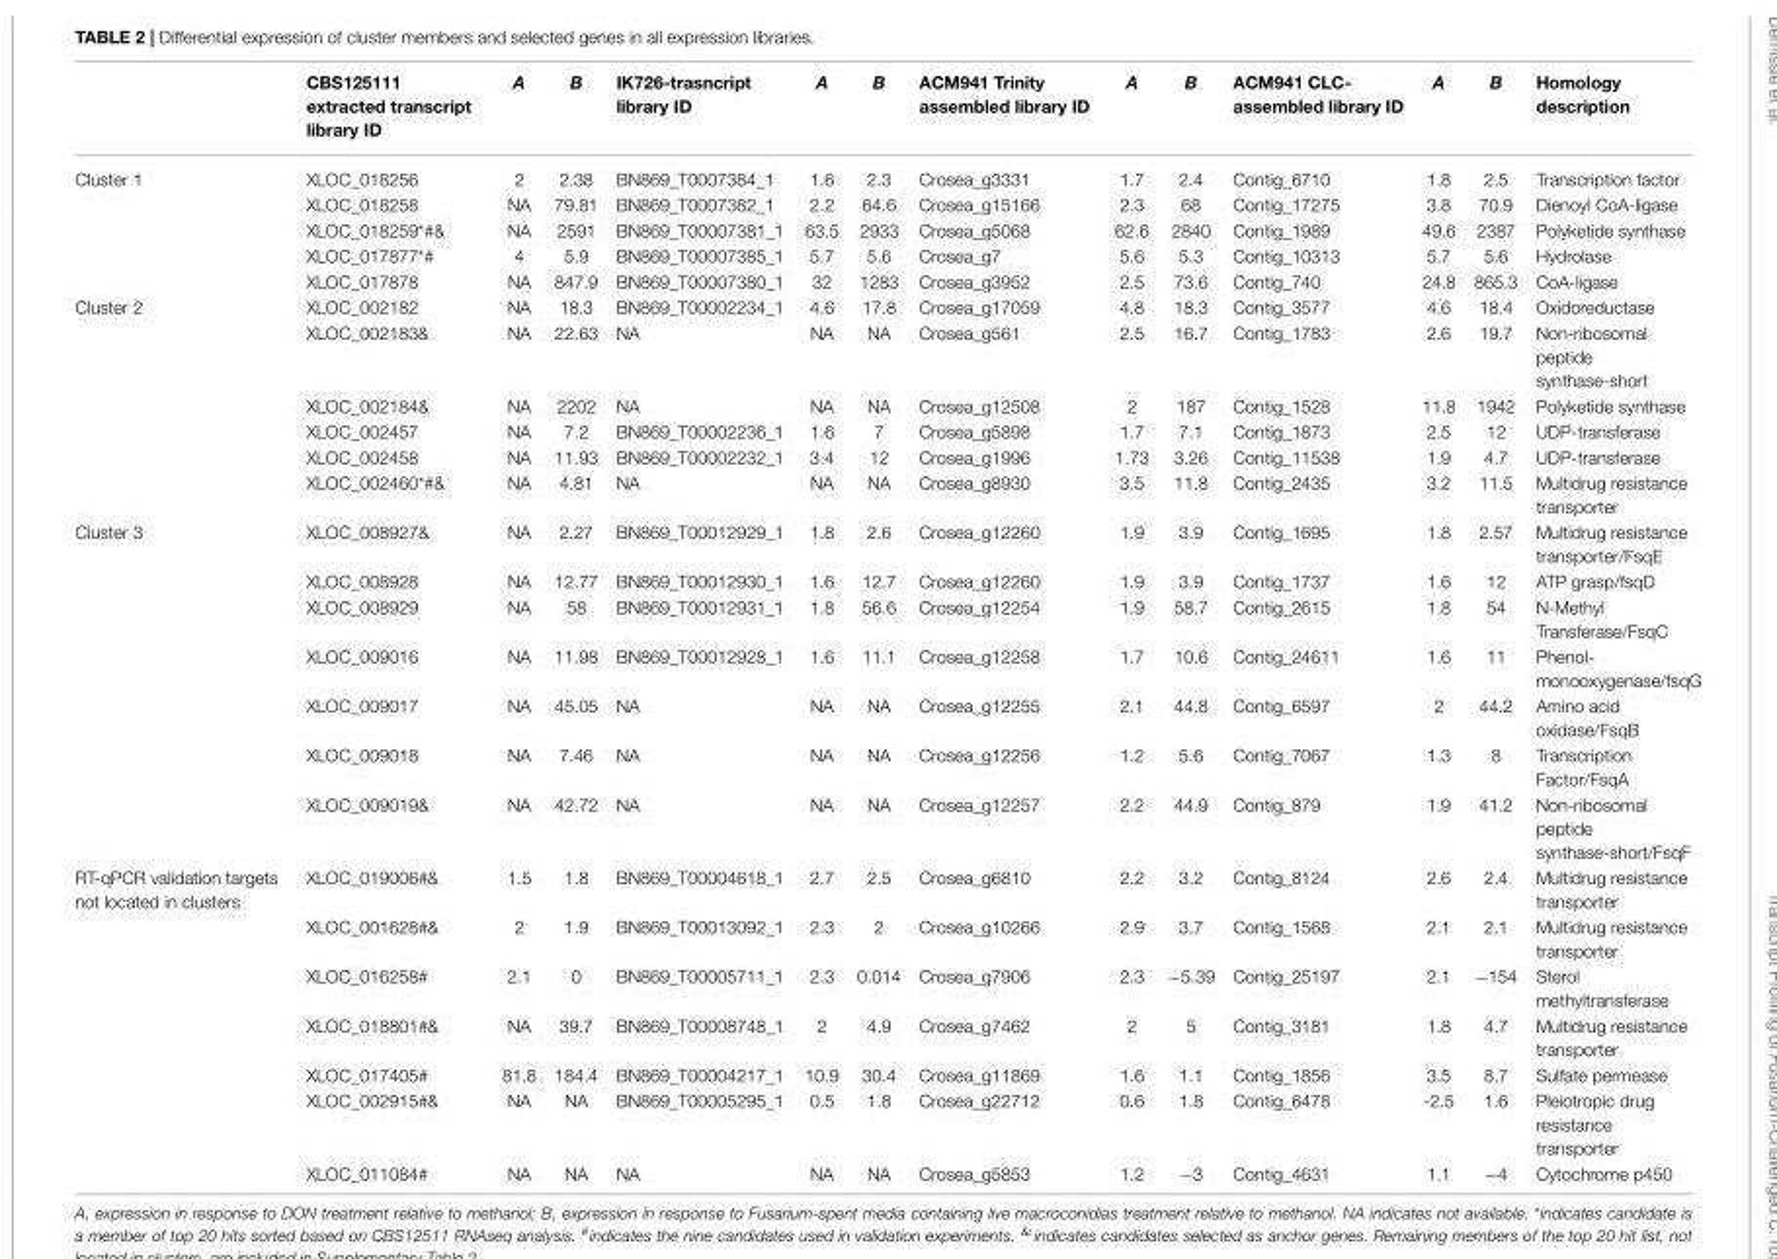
<table><thead><tr><td></td><td>CBS125111 extracted transcript library ID</td><td>A</td><td>B</td><td>IK726-trasncript library ID</td><td>A</td><td>B</td><td>ACM941 Trinity assembled library ID</td><td>A</td><td>B</td><td>ACM941 CLC- assembled library ID</td><td>A</td><td>B</td><td>Homology description</td></tr></thead><tbody><tr><td rowspan="5">Cluster 1</td><td>XLOC_018256</td><td>2</td><td>2.38</td><td>BN869_T0007384_1</td><td>1.6</td><td>2.3</td><td>Crosea_g3331</td><td>1.7</td><td>2.4</td><td>Contig_6710</td><td>1.8</td><td>2.5</td><td>Transcription factor</td></tr><tr><td>XLOC_018258</td><td>NA</td><td>79.81</td><td>BN869_T0007382_1</td><td>2.2</td><td>64.6</td><td>Crosea_g15166</td><td>2.3</td><td>68</td><td>Contig_17275</td><td>3.8</td><td>70.9</td><td>Dienoyl CoA-ligase</td></tr><tr><td>XLOC_018259<sup>*#&amp;</sup></td><td>NA</td><td>2591</td><td>BN869_T00007381_1</td><td>63.5</td><td>2933</td><td>Crosea_g5068</td><td>62.6</td><td>2840</td><td>Contig_1989</td><td>49.6</td><td>2387</td><td>Polyketide synthase</td></tr><tr><td>XLOC_017877<sup>*#</sup></td><td>4</td><td>5.9</td><td>BN869_T00007385_1</td><td>5.7</td><td>5.6</td><td>Crosea_g7</td><td>5.6</td><td>5.3</td><td>Contig_10313</td><td>5.7</td><td>5.6</td><td>Hydrolase</td></tr><tr><td>XLOC_017878</td><td>NA</td><td>847.9</td><td>BN869_T00007380_1</td><td>32</td><td>1283</td><td>Crosea_g3952</td><td>2.5</td><td>73.6</td><td>Contig_740</td><td>24.8</td><td>865.3</td><td>CoA-ligase</td></tr><tr><td rowspan="6">Cluster 2</td><td>XLOC_002182</td><td>NA</td><td>18.3</td><td>BN869_T00002234_1</td><td>4.6</td><td>17.8</td><td>Crosea_g17059</td><td>4.8</td><td>18.3</td><td>Contig_3577</td><td>4.6</td><td>18.4</td><td>Oxidoreductase</td></tr><tr><td>XLOC_002183<sup>&amp;</sup></td><td>NA</td><td>22.63</td><td>NA</td><td>NA</td><td>NA</td><td>Crosea_g561</td><td>2.5</td><td>16.7</td><td>Contig_1783</td><td>2.6</td><td>19.7</td><td>Non-ribosomal peptide synthase-short</td></tr><tr><td>XLOC_002184<sup>&amp;</sup></td><td>NA</td><td>2202</td><td>NA</td><td>NA</td><td>NA</td><td>Crosea_g12508</td><td>2</td><td>187</td><td>Contig_1528</td><td>11.8</td><td>1942</td><td>Polyketide synthase</td></tr><tr><td>XLOC_002457</td><td>NA</td><td>7.2</td><td>BN869_T00002236_1</td><td>1.6</td><td>7</td><td>Crosea_g5898</td><td>1.7</td><td>7.1</td><td>Contig_1873</td><td>2.5</td><td>12</td><td>UDP-transferase</td></tr><tr><td>XLOC_002458</td><td>NA</td><td>11.93</td><td>BN869_T00002232_1</td><td>3.4</td><td>12</td><td>Crosea_g1996</td><td>1.73</td><td>3.26</td><td>Contig_11538</td><td>1.9</td><td>4.7</td><td>UDP-transferase</td></tr><tr><td>XLOC_002460<sup>*#&amp;</sup></td><td>NA</td><td>4.81</td><td>NA</td><td>NA</td><td>NA</td><td>Crosea_g8930</td><td>3.5</td><td>11.8</td><td>Contig_2435</td><td>3.2</td><td>11.5</td><td>Multidrug resistance transporter</td></tr><tr><td rowspan="7">Cluster 3</td><td>XLOC_008927<sup>&amp;</sup></td><td>NA</td><td>2.27</td><td>BN869_T00012929_1</td><td>1.8</td><td>2.6</td><td>Crosea_g12260</td><td>1.9</td><td>3.9</td><td>Contig_1695</td><td>1.8</td><td>2.57</td><td>Multidrug resistance transporter/FsqE</td></tr><tr><td>XLOC_008928</td><td>NA</td><td>12.77</td><td>BN869_T00012930_1</td><td>1.6</td><td>12.7</td><td>Crosea_g12260</td><td>1.9</td><td>3.9</td><td>Contig_1737</td><td>1.6</td><td>12</td><td>ATP grasp/fsqD</td></tr><tr><td>XLOC_008929</td><td>NA</td><td>58</td><td>BN869_T00012931_1</td><td>1.8</td><td>56.6</td><td>Crosea_g12254</td><td>1.9</td><td>58.7</td><td>Contig_2615</td><td>1.8</td><td>54</td><td>N-Methyl Transferase/FsqC</td></tr><tr><td>XLOC_009016</td><td>NA</td><td>11.98</td><td>BN869_T00012928_1</td><td>1.6</td><td>11.1</td><td>Crosea_g12258</td><td>1.7</td><td>10.6</td><td>Contig_24611</td><td>1.6</td><td>11</td><td>Phenol- monooxygenase/fsqG</td></tr><tr><td>XLOC_009017</td><td>NA</td><td>45.05</td><td>NA</td><td>NA</td><td>NA</td><td>Crosea_g12255</td><td>2.1</td><td>44.8</td><td>Contig_6597</td><td>2</td><td>44.2</td><td>Amino acid oxidase/FsqB</td></tr><tr><td>XLOC_009018</td><td>NA</td><td>7.46</td><td>NA</td><td>NA</td><td>NA</td><td>Crosea_g12256</td><td>1.2</td><td>5.6</td><td>Contig_7067</td><td>1.3</td><td>8</td><td>Transcription Factor/FsqA</td></tr><tr><td>XLOC_009019<sup>&amp;</sup></td><td>NA</td><td>42.72</td><td>NA</td><td>NA</td><td>NA</td><td>Crosea_g12257</td><td>2.2</td><td>44.9</td><td>Contig_879</td><td>1.9</td><td>41.2</td><td>Non-ribosomal peptide synthase-short/FsqF</td></tr><tr><td rowspan="7">RT-qPCR validation targets not located in clusters</td><td>XLOC_019006<sup>#&amp;</sup></td><td>1.5</td><td>1.8</td><td>BN869_T00004618_1</td><td>2.7</td><td>2.5</td><td>Crosea_g6810</td><td>2.2</td><td>3.2</td><td>Contig_8124</td><td>2.6</td><td>2.4</td><td>Multidrug resistance transporter</td></tr><tr><td>XLOC_001628<sup>#&amp;</sup></td><td>2</td><td>1.9</td><td>BN869_T00013092_1</td><td>2.3</td><td>2</td><td>Crosea_g10266</td><td>2.9</td><td>3.7</td><td>Contig_1568</td><td>2.1</td><td>2.1</td><td>Multidrug resistance transporter</td></tr><tr><td>XLOC_016258<sup>#</sup></td><td>2.1</td><td>0</td><td>BN869_T00005711_1</td><td>2.3</td><td>0.014</td><td>Crosea_g7906</td><td>2.3</td><td>−5.39</td><td>Contig_25197</td><td>2.1</td><td>−154</td><td>Sterol methyltransferase</td></tr><tr><td>XLOC_018801<sup>#&amp;</sup></td><td>NA</td><td>39.7</td><td>BN869_T00008748_1</td><td>2</td><td>4.9</td><td>Crosea_g7462</td><td>2</td><td>5</td><td>Contig_3181</td><td>1.8</td><td>4.7</td><td>Multidrug resistance transporter</td></tr><tr><td>XLOC_017405<sup>#</sup></td><td>81.8</td><td>184.4</td><td>BN869_T00004217_1</td><td>10.9</td><td>30.4</td><td>Crosea_g11869</td><td>1.6</td><td>1.1</td><td>Contig_1856</td><td>3.5</td><td>8.7</td><td>Sulfate permease</td></tr><tr><td>XLOC_002915<sup>#&amp;</sup></td><td>NA</td><td>NA</td><td>BN869_T00005295_1</td><td>0.5</td><td>1.8</td><td>Crosea_g22712</td><td>0.6</td><td>1.8</td><td>Contig_6478</td><td>-2.5</td><td>1.6</td><td>Pleiotropic drug resistance transporter</td></tr><tr><td>XLOC_011084<sup>#</sup></td><td>NA</td><td>NA</td><td>NA</td><td>NA</td><td>NA</td><td>Crosea_g5853</td><td>1.2</td><td>−3</td><td>Contig_4631</td><td>1.1</td><td>−4</td><td>Cytochrome p450</td></tr></tbody></table>